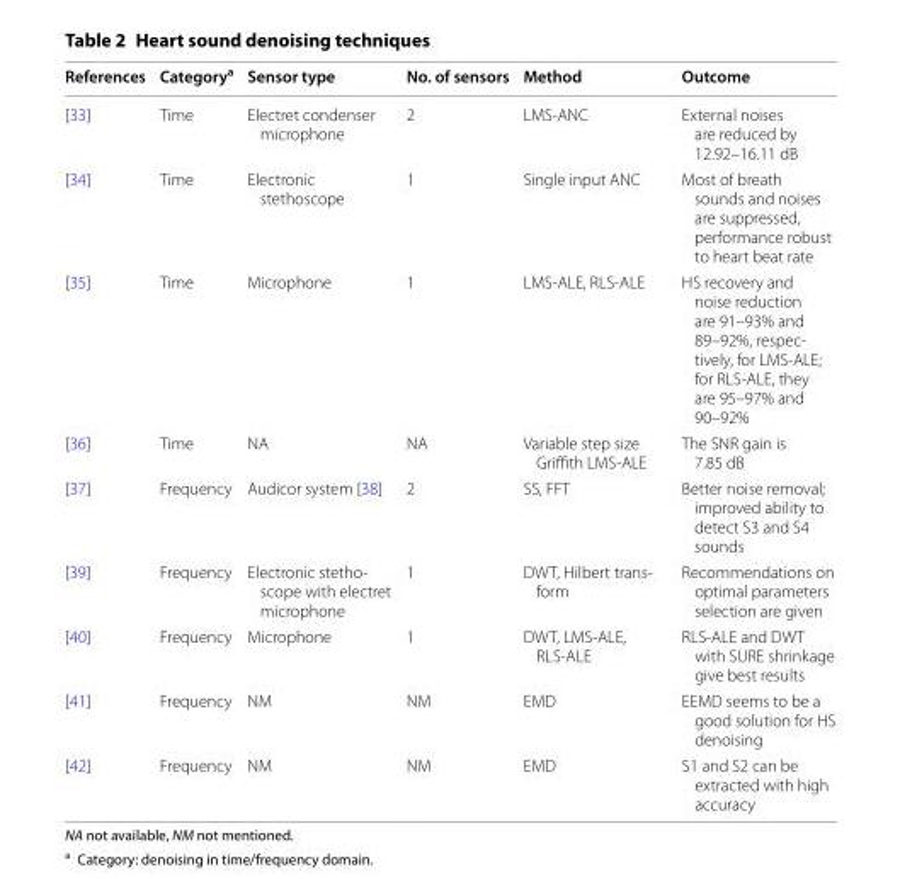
<table><thead><tr><td>References</td><td>Category<sup>a</sup></td><td>Sensor type</td><td>No. of sensors</td><td>Method</td><td>Outcome</td></tr></thead><tbody><tr><td>[33]</td><td>Time</td><td>Electret condenser microphone</td><td>2</td><td>LMS-ANC</td><td>External noises are reduced by 12.92–16.11 dB</td></tr><tr><td>[34]</td><td>Time</td><td>Electronic stethoscope</td><td>1</td><td>Single input ANC</td><td>Most of breath sounds and noises are suppressed, performance robust to heart beat rate</td></tr><tr><td>[35]</td><td>Time</td><td>Microphone</td><td>1</td><td>LMS-ALE, RLS-ALE</td><td>HS recovery and noise reduction are 91–93% and 89–92%, respec- tively, for LMS-ALE; for RLS-ALE, they are 95–97% and 90–92%</td></tr><tr><td>[36]</td><td>Time</td><td>NA</td><td>NA</td><td>Variable step size Griffith LMS-ALE</td><td>The SNR gain is 7.85 dB</td></tr><tr><td>[37]</td><td>Frequency</td><td>Audicor system [38]</td><td>2</td><td>SS, FFT</td><td>Better noise removal; improved ability to detect S3 and S4 sounds</td></tr><tr><td>[39]</td><td>Frequency</td><td>Electronic stetho- scope with electret microphone</td><td>1</td><td>DWT, Hilbert trans- form</td><td>Recommendations on optimal parameters selection are given</td></tr><tr><td>[40]</td><td>Frequency</td><td>Microphone</td><td>1</td><td>DWT, LMS-ALE, RLS-ALE</td><td>RLS-ALE and DWT with SURE shrinkage give best results</td></tr><tr><td>[41]</td><td>Frequency</td><td>NM</td><td>NM</td><td>EMD</td><td>EEMD seems to be a good solution for HS denoising</td></tr><tr><td>[42]</td><td>Frequency</td><td>NM</td><td>NM</td><td>EMD</td><td>S1 and S2 can be extracted with high accuracy</td></tr></tbody></table>